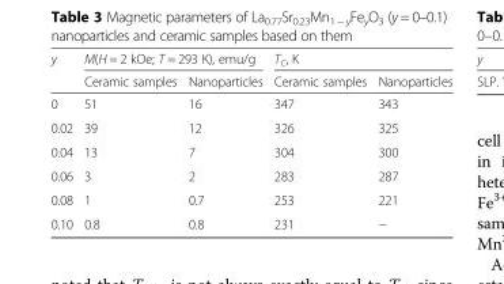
<table><thead><tr><td rowspan="2">y</td><td colspan="2">M(H = 2 kOe; T = 293 K), emu/g</td><td colspan="2">T<sub>C</sub>, K</td></tr><tr><td>Ceramic samples</td><td>Nanoparticles</td><td>Ceramic samples</td><td>Nanoparticles</td></tr></thead><tbody><tr><td>0</td><td>51</td><td>16</td><td>347</td><td>343</td></tr><tr><td>0.02</td><td>39</td><td>12</td><td>326</td><td>325</td></tr><tr><td>0.04</td><td>13</td><td>7</td><td>304</td><td>300</td></tr><tr><td>0.06</td><td>3</td><td>2</td><td>283</td><td>287</td></tr><tr><td>0.08</td><td>1</td><td>0.7</td><td>253</td><td>221</td></tr><tr><td>0.10</td><td>0.8</td><td>0.8</td><td>231</td><td>−</td></tr></tbody></table>